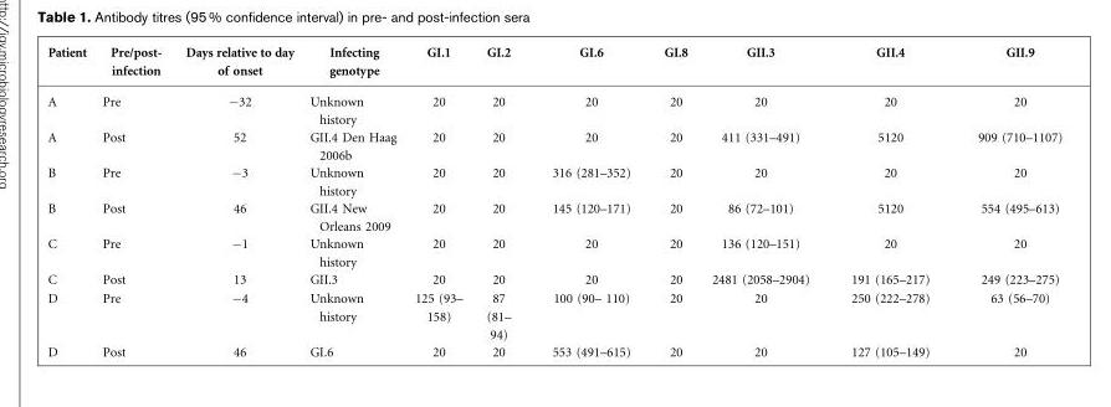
<table><thead><tr><td>Patient</td><td>Pre/post- infection</td><td>Days relative to day of onset</td><td>Infecting genotype</td><td>GI.1</td><td>GI.2</td><td>GI.6</td><td>GI.8</td><td>GII.3</td><td>GII.4</td><td>GII.9</td></tr></thead><tbody><tr><td>A</td><td>Pre</td><td>−32</td><td>Unknown history</td><td>20</td><td>20</td><td>20</td><td>20</td><td>20</td><td>20</td><td>20</td></tr><tr><td>A</td><td>Post</td><td>52</td><td>GII.4 Den Haag 2006b</td><td>20</td><td>20</td><td>20</td><td>20</td><td>411 (331–491)</td><td>5120</td><td>909 (710–1107)</td></tr><tr><td>B</td><td>Pre</td><td>−3</td><td>Unknown history</td><td>20</td><td>20</td><td>316 (281–352)</td><td>20</td><td>20</td><td>20</td><td>20</td></tr><tr><td>B</td><td>Post</td><td>46</td><td>GII.4 New Orleans 2009</td><td>20</td><td>20</td><td>145 (120–171)</td><td>20</td><td>86 (72–101)</td><td>5120</td><td>554 (495–613)</td></tr><tr><td>C</td><td>Pre</td><td>−1</td><td>Unknown history</td><td>20</td><td>20</td><td>20</td><td>20</td><td>136 (120–151)</td><td>20</td><td>20</td></tr><tr><td>C</td><td>Post</td><td>13</td><td>GII.3</td><td>20</td><td>20</td><td>20</td><td>20</td><td>2481 (2058–2904)</td><td>191 (165–217)</td><td>249 (223–275)</td></tr><tr><td>D</td><td>Pre</td><td>−4</td><td>Unknown history</td><td>125 (93– 158)</td><td>87 (81– 94)</td><td>100 (90– 110)</td><td>20</td><td>20</td><td>250 (222–278)</td><td>63 (56–70)</td></tr><tr><td>D</td><td>Post</td><td>46</td><td>GI.6</td><td>20</td><td>20</td><td>553 (491–615)</td><td>20</td><td>20</td><td>127 (105–149)</td><td>20</td></tr></tbody></table>